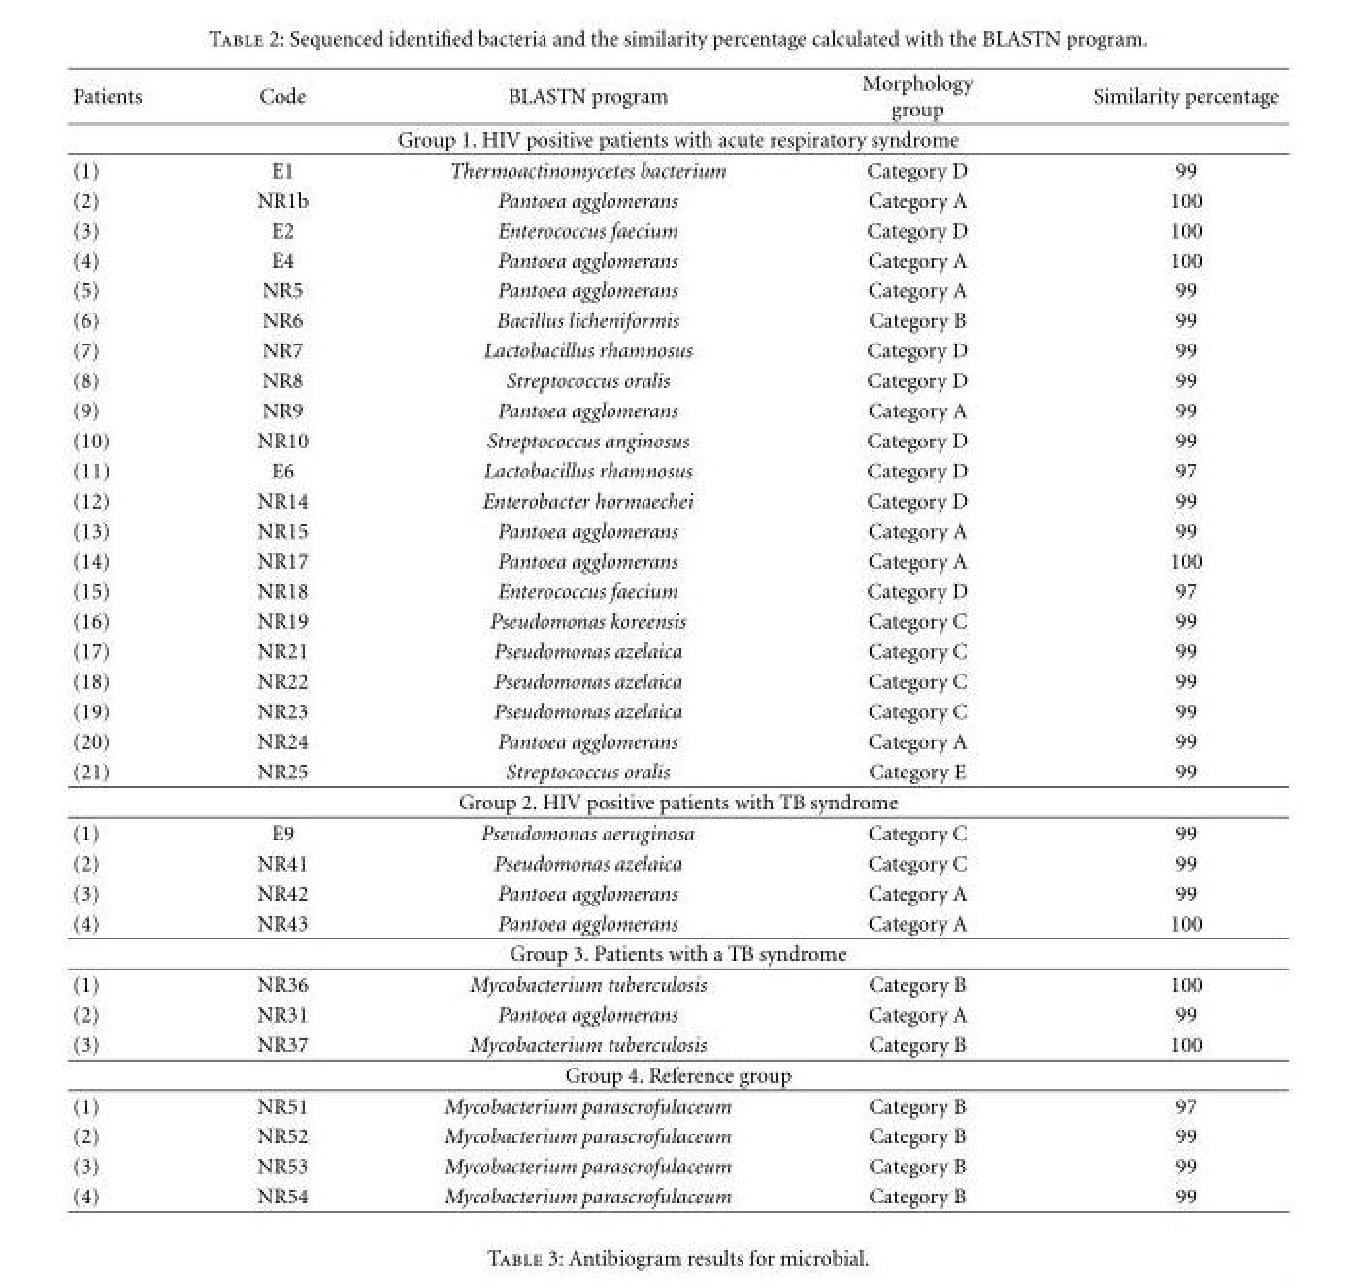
<table><thead><tr><td>Patients</td><td>Code</td><td>BLASTN program</td><td>Morphology group</td><td>Similarity percentage</td></tr></thead><tbody><tr><td colspan="5">Group 1. HIV positive patients with acute respiratory syndrome</td></tr><tr><td>(1)</td><td>E1</td><td>Thermoactinomycetes bacterium</td><td>Category D</td><td>99</td></tr><tr><td>(2)</td><td>NR1b</td><td>Pantoea agglomerans</td><td>Category A</td><td>100</td></tr><tr><td>(3)</td><td>E2</td><td>Enterococcus faecium</td><td>Category D</td><td>100</td></tr><tr><td>(4)</td><td>E4</td><td>Pantoea agglomerans</td><td>Category A</td><td>100</td></tr><tr><td>(5)</td><td>NR5</td><td>Pantoea agglomerans</td><td>Category A</td><td>99</td></tr><tr><td>(6)</td><td>NR6</td><td>Bacillus licheniformis</td><td>Category B</td><td>99</td></tr><tr><td>(7)</td><td>NR7</td><td>Lactobacillus rhamnosus</td><td>Category D</td><td>99</td></tr><tr><td>(8)</td><td>NR8</td><td>Streptococcus oralis</td><td>Category D</td><td>99</td></tr><tr><td>(9)</td><td>NR9</td><td>Pantoea agglomerans</td><td>Category A</td><td>99</td></tr><tr><td>(10)</td><td>NR10</td><td>Streptococcus anginosus</td><td>Category D</td><td>99</td></tr><tr><td>(11)</td><td>E6</td><td>Lactobacillus rhamnosus</td><td>Category D</td><td>97</td></tr><tr><td>(12)</td><td>NR14</td><td>Enterobacter hormaechei</td><td>Category D</td><td>99</td></tr><tr><td>(13)</td><td>NR15</td><td>Pantoea agglomerans</td><td>Category A</td><td>99</td></tr><tr><td>(14)</td><td>NR17</td><td>Pantoea agglomerans</td><td>Category A</td><td>100</td></tr><tr><td>(15)</td><td>NR18</td><td>Enterococcus faecium</td><td>Category D</td><td>97</td></tr><tr><td>(16)</td><td>NR19</td><td>Pseudomonas koreensis</td><td>Category C</td><td>99</td></tr><tr><td>(17)</td><td>NR21</td><td>Pseudomonas azelaica</td><td>Category C</td><td>99</td></tr><tr><td>(18)</td><td>NR22</td><td>Pseudomonas azelaica</td><td>Category C</td><td>99</td></tr><tr><td>(19)</td><td>NR23</td><td>Pseudomonas azelaica</td><td>Category C</td><td>99</td></tr><tr><td>(20)</td><td>NR24</td><td>Pantoea agglomerans</td><td>Category A</td><td>99</td></tr><tr><td>(21)</td><td>NR25</td><td>Streptococcus oralis</td><td>Category E</td><td>99</td></tr><tr><td colspan="5">Group 2. HIV positive patients with TB syndrome</td></tr><tr><td>(1)</td><td>E9</td><td>Pseudomonas aeruginosa</td><td>Category C</td><td>99</td></tr><tr><td>(2)</td><td>NR41</td><td>Pseudomonas azelaica</td><td>Category C</td><td>99</td></tr><tr><td>(3)</td><td>NR42</td><td>Pantoea agglomerans</td><td>Category A</td><td>99</td></tr><tr><td>(4)</td><td>NR43</td><td>Pantoea agglomerans</td><td>Category A</td><td>100</td></tr><tr><td colspan="5">Group 3. Patients with a TB syndrome</td></tr><tr><td>(1)</td><td>NR36</td><td>Mycobacterium tuberculosis</td><td>Category B</td><td>100</td></tr><tr><td>(2)</td><td>NR31</td><td>Pantoea agglomerans</td><td>Category A</td><td>99</td></tr><tr><td>(3)</td><td>NR37</td><td>Mycobacterium tuberculosis</td><td>Category B</td><td>100</td></tr><tr><td colspan="5">Group 4. Reference group</td></tr><tr><td>(1)</td><td>NR51</td><td>Mycobacterium parascrofulaceum</td><td>Category B</td><td>97</td></tr><tr><td>(2)</td><td>NR52</td><td>Mycobacterium parascrofulaceum</td><td>Category B</td><td>99</td></tr><tr><td>(3)</td><td>NR53</td><td>Mycobacterium parascrofulaceum</td><td>Category B</td><td>99</td></tr><tr><td>(4)</td><td>NR54</td><td>Mycobacterium parascrofulaceum</td><td>Category B</td><td>99</td></tr></tbody></table>